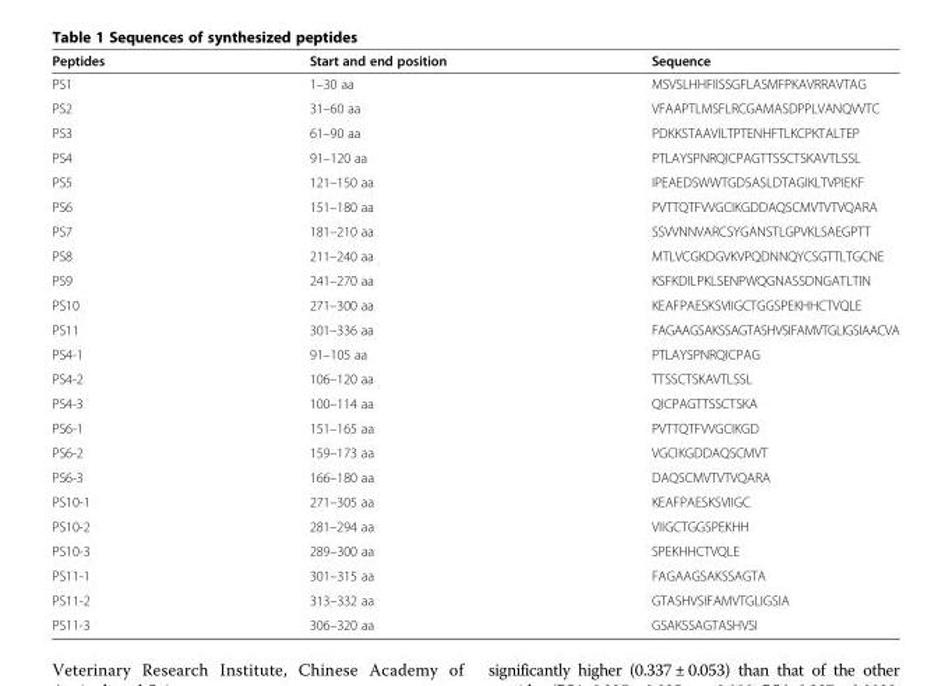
<table><thead><tr><td>Peptides</td><td>Start and end position</td><td>Sequence</td></tr></thead><tbody><tr><td>PS1</td><td>1–30 aa</td><td>MSVSLHHFIISSGFLASMFPKAVRRAVTAG</td></tr><tr><td>PS2</td><td>31–60 aa</td><td>VFAAPTLMSFLRCGAMASDPPLVANQVVTC</td></tr><tr><td>PS3</td><td>61–90 aa</td><td>PDKKSTAAVILTPTENHFTLKCPKTALTEP</td></tr><tr><td>PS4</td><td>91–120 aa</td><td>PTLAYSPNRQICPAGTTSSCTSKAVTLSSL</td></tr><tr><td>PS5</td><td>121–150 aa</td><td>IPEAEDSWWTGDSASLDTAGIKLTVPIEKF</td></tr><tr><td>PS6</td><td>151–180 aa</td><td>PVTTQTFVVGCIKGDDAQSCMVTVTVQARA</td></tr><tr><td>PS7</td><td>181–210 aa</td><td>SSVVNNVARCSYGANSTLGPVKLSAEGPTT</td></tr><tr><td>PS8</td><td>211–240 aa</td><td>MTLVCGKDGVKVPQDNNQYCSGTTLTGCNE</td></tr><tr><td>PS9</td><td>241–270 aa</td><td>KSFKDILPKLSENPWQGNASSDNGATLTIN</td></tr><tr><td>PS10</td><td>271–300 aa</td><td>KEAFPAESKSVIIGCTGGSPEKHHCTVQLE</td></tr><tr><td>PS11</td><td>301–336 aa</td><td>FAGAAGSAKSSAGTASHVSIFAMVTGLIGSIAACVA</td></tr><tr><td>PS4-1</td><td>91–105 aa</td><td>PTLAYSPNRQICPAG</td></tr><tr><td>PS4-2</td><td>106–120 aa</td><td>TTSSCTSKAVTLSSL</td></tr><tr><td>PS4-3</td><td>100–114 aa</td><td>QICPAGTTSSCTSKA</td></tr><tr><td>PS6-1</td><td>151–165 aa</td><td>PVTTQTFVVGCIKGD</td></tr><tr><td>PS6-2</td><td>159–173 aa</td><td>VGCIKGDDAQSCMVT</td></tr><tr><td>PS6-3</td><td>166–180 aa</td><td>DAQSCMVTVTVQARA</td></tr><tr><td>PS10-1</td><td>271–305 aa</td><td>KEAFPAESKSVIIGC</td></tr><tr><td>PS10-2</td><td>281–294 aa</td><td>VIIGCTGGSPEKHH</td></tr><tr><td>PS10-3</td><td>289–300 aa</td><td>SPEKHHCTVQLE</td></tr><tr><td>PS11-1</td><td>301–315 aa</td><td>FAGAAGSAKSSAGTA</td></tr><tr><td>PS11-2</td><td>313–332 aa</td><td>GTASHVSIFAMVTGLIGSIA</td></tr><tr><td>PS11-3</td><td>306–320 aa</td><td>GSAKSSAGTASHVSI</td></tr></tbody></table>